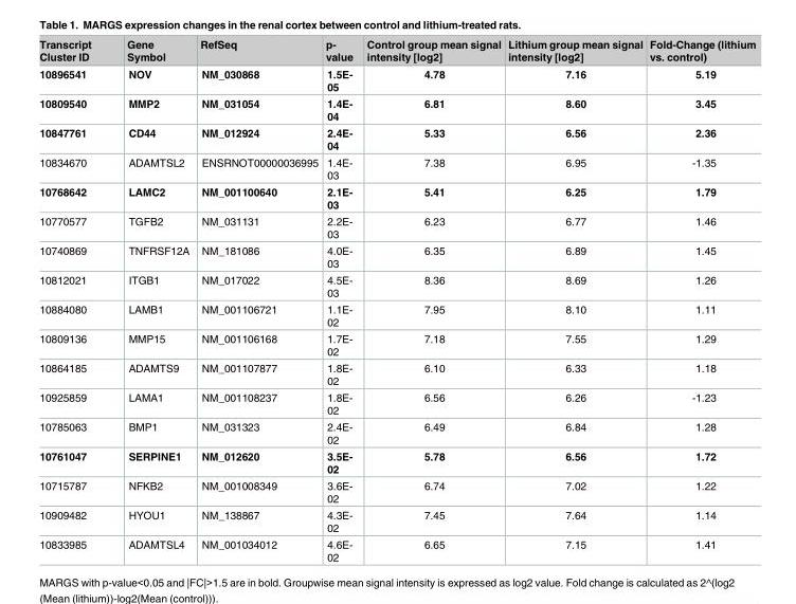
<table><thead><tr><td>Transcript Cluster ID</td><td>Gene Symbol</td><td>RefSeq</td><td>p- value</td><td>Control group mean signal intensity [log2]</td><td>Lithium group mean signal intensity [log2]</td><td>Fold-Change (lithium vs. control)</td></tr></thead><tbody><tr><td>10896541</td><td>NOV</td><td>NM_030868</td><td>1.5E- 05</td><td>4.78</td><td>7.16</td><td>5.19</td></tr><tr><td>10809540</td><td>MMP2</td><td>NM_031054</td><td>1.4E- 04</td><td>6.81</td><td>8.60</td><td>3.45</td></tr><tr><td>10847761</td><td>CD44</td><td>NM_012924</td><td>2.4E- 04</td><td>5.33</td><td>6.56</td><td>2.36</td></tr><tr><td>10834670</td><td>ADAMTSL2</td><td>ENSRNOT00000036995</td><td>1.4E- 03</td><td>7.38</td><td>6.95</td><td>-1.35</td></tr><tr><td>10768642</td><td>LAMC2</td><td>NM_001100640</td><td>2.1E- 03</td><td>5.41</td><td>6.25</td><td>1.79</td></tr><tr><td>10770577</td><td>TGFB2</td><td>NM_031131</td><td>2.2E- 03</td><td>6.23</td><td>6.77</td><td>1.46</td></tr><tr><td>10740869</td><td>TNFRSF12A</td><td>NM_181086</td><td>4.0E- 03</td><td>6.35</td><td>6.89</td><td>1.45</td></tr><tr><td>10812021</td><td>ITGB1</td><td>NM_017022</td><td>4.5E- 03</td><td>8.36</td><td>8.69</td><td>1.26</td></tr><tr><td>10884080</td><td>LAMB1</td><td>NM_001106721</td><td>1.1E- 02</td><td>7.95</td><td>8.10</td><td>1.11</td></tr><tr><td>10809136</td><td>MMP15</td><td>NM_001106168</td><td>1.7E- 02</td><td>7.18</td><td>7.55</td><td>1.29</td></tr><tr><td>10864185</td><td>ADAMTS9</td><td>NM_001107877</td><td>1.8E- 02</td><td>6.10</td><td>6.33</td><td>1.18</td></tr><tr><td>10925859</td><td>LAMA1</td><td>NM_001108237</td><td>1.8E- 02</td><td>6.56</td><td>6.26</td><td>-1.23</td></tr><tr><td>10785063</td><td>BMP1</td><td>NM_031323</td><td>2.4E- 02</td><td>6.49</td><td>6.84</td><td>1.28</td></tr><tr><td>10761047</td><td>SERPINE1</td><td>NM_012620</td><td>3.5E- 02</td><td>5.78</td><td>6.56</td><td>1.72</td></tr><tr><td>10715787</td><td>NFKB2</td><td>NM_001008349</td><td>3.6E- 02</td><td>6.74</td><td>7.02</td><td>1.22</td></tr><tr><td>10909482</td><td>HYOU1</td><td>NM_138867</td><td>4.3E- 02</td><td>7.45</td><td>7.64</td><td>1.14</td></tr><tr><td>10833985</td><td>ADAMTSL4</td><td>NM_001034012</td><td>4.6E- 02</td><td>6.65</td><td>7.15</td><td>1.41</td></tr></tbody></table>